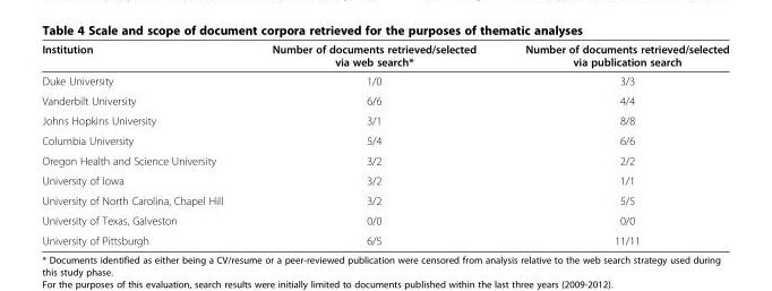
<table><thead><tr><td>Institution</td><td>Number of documents retrieved/selected via web search*</td><td>Number of documents retrieved/selected via publication search</td></tr></thead><tbody><tr><td>Duke University</td><td>1/0</td><td>3/3</td></tr><tr><td>Vanderbilt University</td><td>6/6</td><td>4/4</td></tr><tr><td>Johns Hopkins University</td><td>3/1</td><td>8/8</td></tr><tr><td>Columbia University</td><td>5/4</td><td>6/6</td></tr><tr><td>Oregon Health and Science University</td><td>3/2</td><td>2/2</td></tr><tr><td>University of Iowa</td><td>3/2</td><td>1/1</td></tr><tr><td>University of North Carolina, Chapel Hill</td><td>3/2</td><td>5/5</td></tr><tr><td>University of Texas, Galveston</td><td>0/0</td><td>0/0</td></tr><tr><td>University of Pittsburgh</td><td>6/5</td><td>11/11</td></tr></tbody></table>